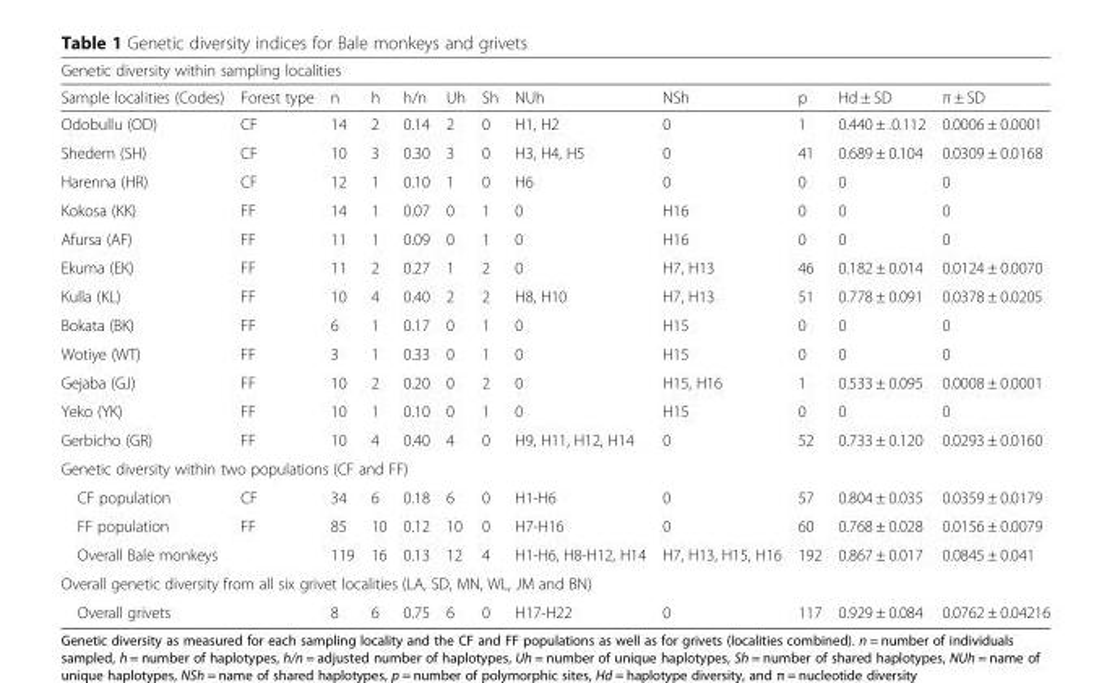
<table><thead><tr><td colspan="12">Genetic diversity within sampling localities</td></tr><tr><td>Sample localities (Codes)</td><td>Forest type</td><td>n</td><td>h</td><td>h/n</td><td>Uh</td><td>Sh</td><td>NUh</td><td>NSh</td><td>p</td><td>Hd ± SD</td><td>π ± SD</td></tr></thead><tbody><tr><td>Odobullu (OD)</td><td>CF</td><td>14</td><td>2</td><td>0.14</td><td>2</td><td>0</td><td>H1, H2</td><td>0</td><td>1</td><td>0.440 ± .0.112</td><td>0.0006 ± 0.0001</td></tr><tr><td>Shedem (SH)</td><td>CF</td><td>10</td><td>3</td><td>0.30</td><td>3</td><td>0</td><td>H3, H4, H5</td><td>0</td><td>41</td><td>0.689 ± 0.104</td><td>0.0309 ± 0.0168</td></tr><tr><td>Harenna (HR)</td><td>CF</td><td>12</td><td>1</td><td>0.10</td><td>1</td><td>0</td><td>H6</td><td>0</td><td>0</td><td>0</td><td>0</td></tr><tr><td>Kokosa (KK)</td><td>FF</td><td>14</td><td>1</td><td>0.07</td><td>0</td><td>1</td><td>0</td><td>H16</td><td>0</td><td>0</td><td>0</td></tr><tr><td>Afursa (AF)</td><td>FF</td><td>11</td><td>1</td><td>0.09</td><td>0</td><td>1</td><td>0</td><td>H16</td><td>0</td><td>0</td><td>0</td></tr><tr><td>Ekuma (EK)</td><td>FF</td><td>11</td><td>2</td><td>0.27</td><td>1</td><td>2</td><td>0</td><td>H7, H13</td><td>46</td><td>0.182 ± 0.014</td><td>0.0124 ± 0.0070</td></tr><tr><td>Kulla (KL)</td><td>FF</td><td>10</td><td>4</td><td>0.40</td><td>2</td><td>2</td><td>H8, H10</td><td>H7, H13</td><td>51</td><td>0.778 ± 0.091</td><td>0.0378 ± 0.0205</td></tr><tr><td>Bokata (BK)</td><td>FF</td><td>6</td><td>1</td><td>0.17</td><td>0</td><td>1</td><td>0</td><td>H15</td><td>0</td><td>0</td><td>0</td></tr><tr><td>Wotiye (WT)</td><td>FF</td><td>3</td><td>1</td><td>0.33</td><td>0</td><td>1</td><td>0</td><td>H15</td><td>0</td><td>0</td><td>0</td></tr><tr><td>Gejaba (GJ)</td><td>FF</td><td>10</td><td>2</td><td>0.20</td><td>0</td><td>2</td><td>0</td><td>H15, H16</td><td>1</td><td>0.533 ± 0.095</td><td>0.0008 ± 0.0001</td></tr><tr><td>Yeko (YK)</td><td>FF</td><td>10</td><td>1</td><td>0.10</td><td>0</td><td>1</td><td>0</td><td>H15</td><td>0</td><td>0</td><td>0</td></tr><tr><td>Gerbicho (GR)</td><td>FF</td><td>10</td><td>4</td><td>0.40</td><td>4</td><td>0</td><td>H9, H11, H12, H14</td><td>0</td><td>52</td><td>0.733 ± 0.120</td><td>0.0293 ± 0.0160</td></tr><tr><td colspan="12">Genetic diversity within two populations (CF and FF)</td></tr><tr><td>CF population</td><td>CF</td><td>34</td><td>6</td><td>0.18</td><td>6</td><td>0</td><td>H1-H6</td><td>0</td><td>57</td><td>0.804 ± 0.035</td><td>0.0359 ± 0.0179</td></tr><tr><td>FF population</td><td>FF</td><td>85</td><td>10</td><td>0.12</td><td>10</td><td>0</td><td>H7-H16</td><td>0</td><td>60</td><td>0.768 ± 0.028</td><td>0.0156 ± 0.0079</td></tr><tr><td>Overall Bale monkeys</td><td></td><td>119</td><td>16</td><td>0.13</td><td>12</td><td>4</td><td>H1-H6, H8-H12, H14</td><td>H7, H13, H15, H16</td><td>192</td><td>0.867 ± 0.017</td><td>0.0845 ± 0.041</td></tr><tr><td colspan="12">Overall genetic diversity from all six grivet localities (LA, SD, MN, WL, JM and BN)</td></tr><tr><td>Overall grivets</td><td></td><td>8</td><td>6</td><td>0.75</td><td>6</td><td>0</td><td>H17-H22</td><td>0</td><td>117</td><td>0.929 ± 0.084</td><td>0.0762 ± 0.04216</td></tr></tbody></table>